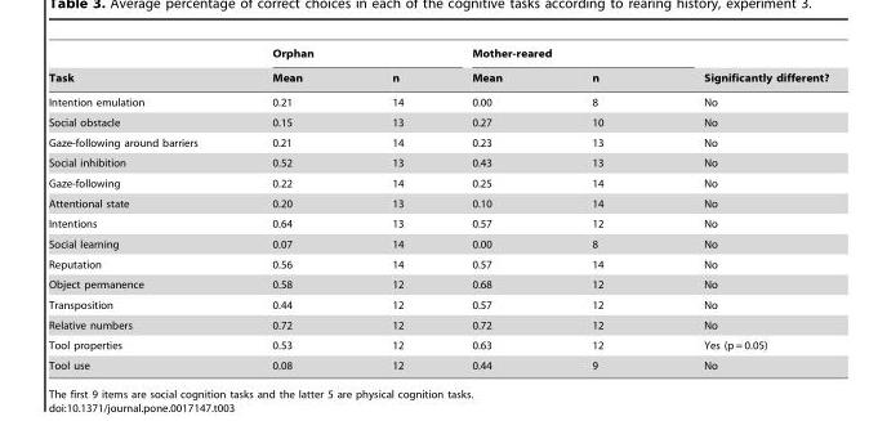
<table><thead><tr><td rowspan="2">Task</td><td colspan="2">Orphan</td><td colspan="2">Mother-reared</td><td rowspan="2">Significantly different?</td></tr><tr><td>Mean</td><td>n</td><td>Mean</td><td>n</td></tr></thead><tbody><tr><td>Intention emulation</td><td>0.21</td><td>14</td><td>0.00</td><td>8</td><td>No</td></tr><tr><td>Social obstacle</td><td>0.15</td><td>13</td><td>0.27</td><td>10</td><td>No</td></tr><tr><td>Gaze-following around barriers</td><td>0.21</td><td>14</td><td>0.23</td><td>13</td><td>No</td></tr><tr><td>Social inhibition</td><td>0.52</td><td>13</td><td>0.43</td><td>13</td><td>No</td></tr><tr><td>Gaze-following</td><td>0.22</td><td>14</td><td>0.25</td><td>14</td><td>No</td></tr><tr><td>Attentional state</td><td>0.20</td><td>13</td><td>0.10</td><td>14</td><td>No</td></tr><tr><td>Intentions</td><td>0.64</td><td>13</td><td>0.57</td><td>12</td><td>No</td></tr><tr><td>Social learning</td><td>0.07</td><td>14</td><td>0.00</td><td>8</td><td>No</td></tr><tr><td>Reputation</td><td>0.56</td><td>14</td><td>0.57</td><td>14</td><td>No</td></tr><tr><td>Object permanence</td><td>0.58</td><td>12</td><td>0.68</td><td>12</td><td>No</td></tr><tr><td>Transposition</td><td>0.44</td><td>12</td><td>0.57</td><td>12</td><td>No</td></tr><tr><td>Relative numbers</td><td>0.72</td><td>12</td><td>0.72</td><td>12</td><td>No</td></tr><tr><td>Tool properties</td><td>0.53</td><td>12</td><td>0.63</td><td>12</td><td>Yes (p = 0.05)</td></tr><tr><td>Tool use</td><td>0.08</td><td>12</td><td>0.44</td><td>9</td><td>No</td></tr></tbody></table>